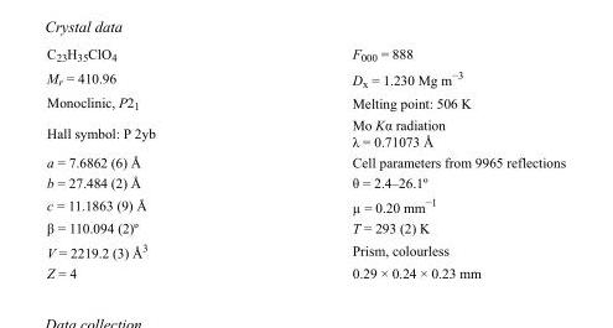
<table><tbody><tr><td>C<sub>23</sub>H<sub>35</sub>ClO<sub>4</sub></td><td>F<sub>000</sub> = 888</td></tr><tr><td>M<sub>r</sub> = 410.96</td><td>D<sub>x</sub> = 1.230 Mg m<sup>−3</sup></td></tr><tr><td>Monoclinic, P2<sub>1</sub></td><td>Melting point: 506 K</td></tr><tr><td>Hall symbol: P 2yb</td><td>Mo Kα radiation λ = 0.71073 Å</td></tr><tr><td>a = 7.6862 (6) Å</td><td>Cell parameters from 9965 reflections</td></tr><tr><td>b = 27.484 (2) Å</td><td>θ = 2.4–26.1º</td></tr><tr><td>c = 11.1863 (9) Å</td><td>µ = 0.20 mm<sup>−1</sup></td></tr><tr><td>β = 110.094 (2)º</td><td>T = 293 (2) K</td></tr><tr><td>V = 2219.2 (3) Å<sup>3</sup></td><td>Prism, colourless</td></tr><tr><td>Z = 4</td><td>0.29 × 0.24 × 0.23 mm</td></tr></tbody></table>